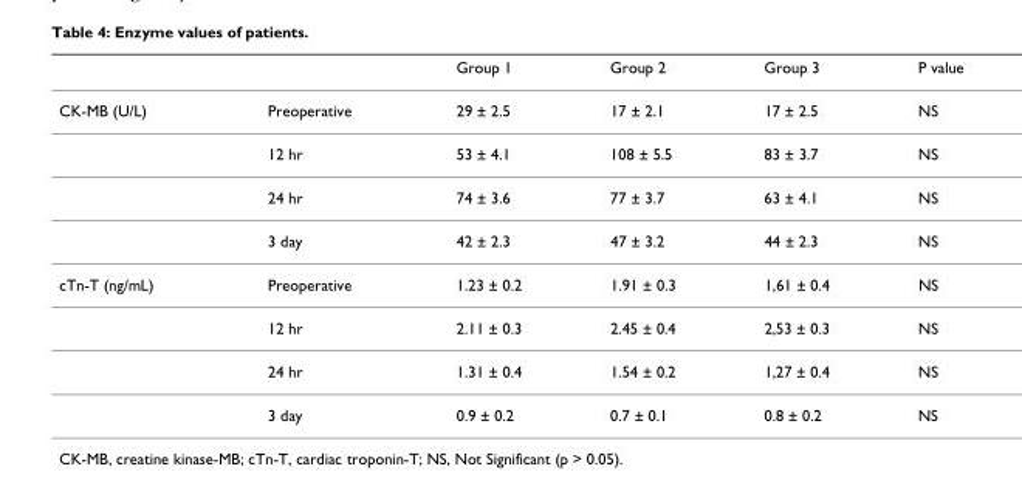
<table><thead><tr><td></td><td></td><td>Group 1</td><td>Group 2</td><td>Group 3</td><td>P value</td></tr></thead><tbody><tr><td rowspan="4">CK-MB (U/L)</td><td>Preoperative</td><td>29 ± 2.5</td><td>17 ± 2.1</td><td>17 ± 2.5</td><td>NS</td></tr><tr><td>12 hr</td><td>53 ± 4.1</td><td>108 ± 5.5</td><td>83 ± 3.7</td><td>NS</td></tr><tr><td>24 hr</td><td>74 ± 3.6</td><td>77 ± 3.7</td><td>63 ± 4.1</td><td>NS</td></tr><tr><td>3 day</td><td>42 ± 2.3</td><td>47 ± 3.2</td><td>44 ± 2.3</td><td>NS</td></tr><tr><td rowspan="4">cTn-T (ng/mL)</td><td>Preoperative</td><td>1.23 ± 0.2</td><td>1.91 ± 0.3</td><td>1,61 ± 0.4</td><td>NS</td></tr><tr><td>12 hr</td><td>2.11 ± 0.3</td><td>2.45 ± 0.4</td><td>2,53 ± 0.3</td><td>NS</td></tr><tr><td>24 hr</td><td>1.31 ± 0.4</td><td>1.54 ± 0.2</td><td>1,27 ± 0.4</td><td>NS</td></tr><tr><td>3 day</td><td>0.9 ± 0.2</td><td>0.7 ± 0.1</td><td>0.8 ± 0.2</td><td>NS</td></tr></tbody></table>